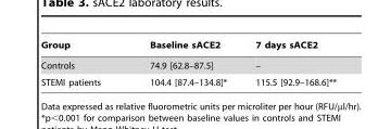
<table><thead><tr><td>Group</td><td>Baseline sACE2</td><td>7 days sACE2</td></tr></thead><tbody><tr><td>Controls</td><td>74.9 [62.8–87.5]</td><td>–</td></tr><tr><td>STEMI patients</td><td>104.4 [87.4–134.8]*</td><td>115.5 [92.9–168.6]**</td></tr></tbody></table>